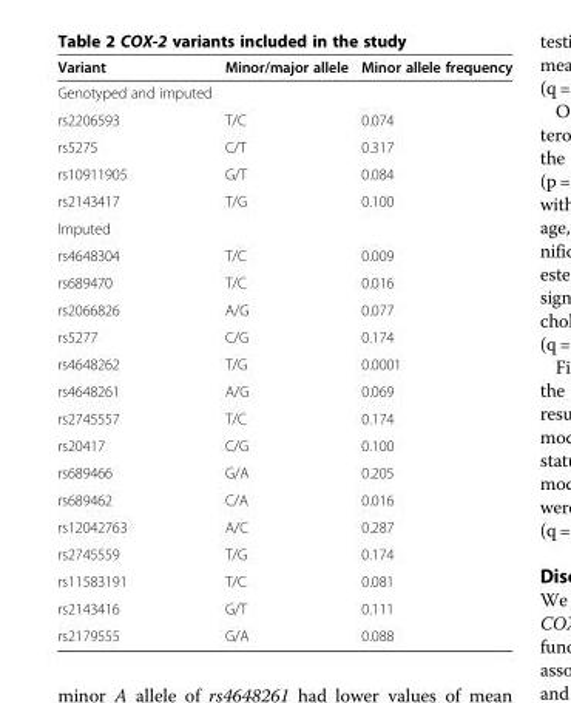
<table><thead><tr><td>Variant</td><td>Minor/major allele</td><td>Minor allele frequency</td></tr></thead><tbody><tr><td colspan="3">Genotyped and imputed</td></tr><tr><td>rs2206593</td><td>T/C</td><td>0.074</td></tr><tr><td>rs5275</td><td>C/T</td><td>0.317</td></tr><tr><td>rs10911905</td><td>G/T</td><td>0.084</td></tr><tr><td>rs2143417</td><td>T/G</td><td>0.100</td></tr><tr><td colspan="3">Imputed</td></tr><tr><td>rs4648304</td><td>T/C</td><td>0.009</td></tr><tr><td>rs689470</td><td>T/C</td><td>0.016</td></tr><tr><td>rs2066826</td><td>A/G</td><td>0.077</td></tr><tr><td>rs5277</td><td>C/G</td><td>0.174</td></tr><tr><td>rs4648262</td><td>T/G</td><td>0.0001</td></tr><tr><td>rs4648261</td><td>A/G</td><td>0.069</td></tr><tr><td>rs2745557</td><td>T/C</td><td>0.174</td></tr><tr><td>rs20417</td><td>C/G</td><td>0.100</td></tr><tr><td>rs689466</td><td>G/A</td><td>0.205</td></tr><tr><td>rs689462</td><td>C/A</td><td>0.016</td></tr><tr><td>rs12042763</td><td>A/C</td><td>0.287</td></tr><tr><td>rs2745559</td><td>T/G</td><td>0.174</td></tr><tr><td>rs11583191</td><td>T/C</td><td>0.081</td></tr><tr><td>rs2143416</td><td>G/T</td><td>0.111</td></tr><tr><td>rs2179555</td><td>G/A</td><td>0.088</td></tr></tbody></table>